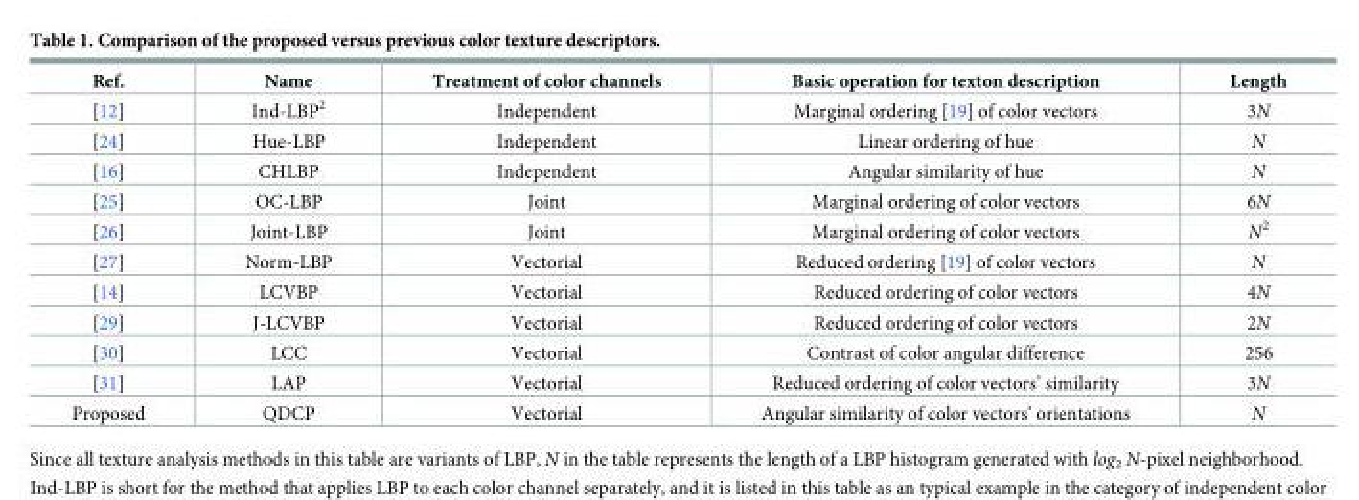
<table><thead><tr><td>Ref.</td><td>Name</td><td>Treatment of color channels</td><td>Basic operation for texton description</td><td>Length</td></tr></thead><tbody><tr><td>[12]</td><td>Ind-LBP<sup>2</sup></td><td>Independent</td><td>Marginal ordering [19] of color vectors</td><td>3N</td></tr><tr><td>[24]</td><td>Hue-LBP</td><td>Independent</td><td>Linear ordering of hue</td><td>N</td></tr><tr><td>[16]</td><td>CHLBP</td><td>Independent</td><td>Angular similarity of hue</td><td>N</td></tr><tr><td>[25]</td><td>OC-LBP</td><td>Joint</td><td>Marginal ordering of color vectors</td><td>6N</td></tr><tr><td>[26]</td><td>Joint-LBP</td><td>Joint</td><td>Marginal ordering of color vectors</td><td>N<sup>2</sup></td></tr><tr><td>[27]</td><td>Norm-LBP</td><td>Vectorial</td><td>Reduced ordering [19] of color vectors</td><td>N</td></tr><tr><td>[14]</td><td>LCVBP</td><td>Vectorial</td><td>Reduced ordering of color vectors</td><td>4N</td></tr><tr><td>[29]</td><td>J-LCVBP</td><td>Vectorial</td><td>Reduced ordering of color vectors</td><td>2N</td></tr><tr><td>[30]</td><td>LCC</td><td>Vectorial</td><td>Contrast of color angular difference</td><td>256</td></tr><tr><td>[31]</td><td>LAP</td><td>Vectorial</td><td>Reduced ordering of color vectors’ similarity</td><td>3N</td></tr><tr><td>Proposed</td><td>QDCP</td><td>Vectorial</td><td>Angular similarity of color vectors’ orientations</td><td>N</td></tr></tbody></table>